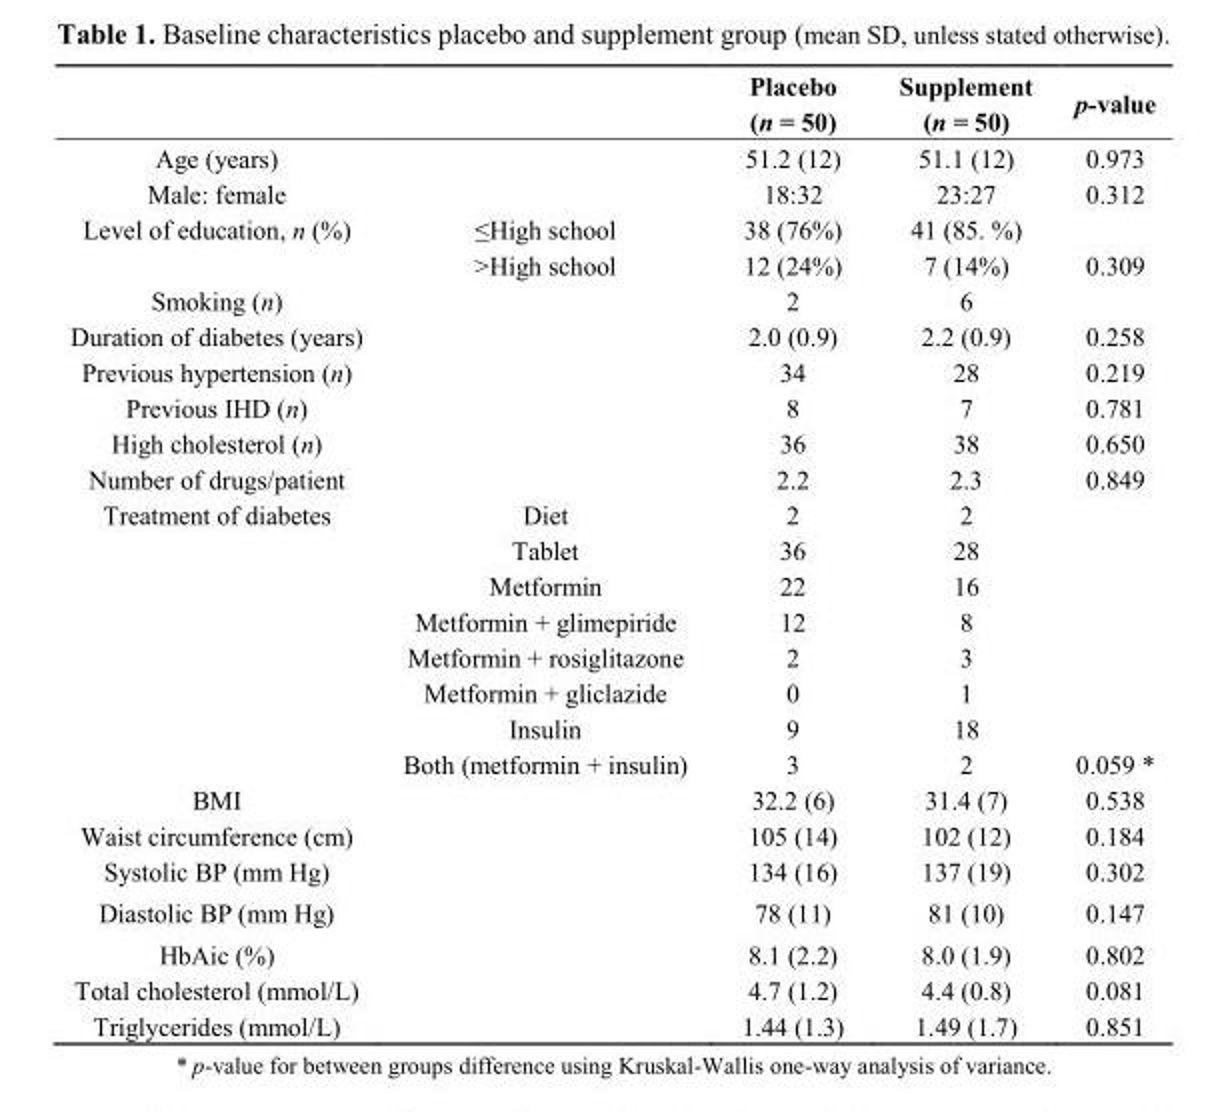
<table><thead><tr><td></td><td></td><td>Placebo (n = 50)</td><td>Supplement (n = 50)</td><td>p-value</td></tr></thead><tbody><tr><td>Age (years)</td><td></td><td>51.2 (12)</td><td>51.1 (12)</td><td>0.973</td></tr><tr><td>Male: female</td><td></td><td>18:32</td><td>23:27</td><td>0.312</td></tr><tr><td rowspan="2">Level of education, n (%)</td><td>≤High school</td><td>38 (76%)</td><td>41 (85. %)</td><td></td></tr><tr><td>&gt;High school</td><td>12 (24%)</td><td>7 (14%)</td><td>0.309</td></tr><tr><td>Smoking (n)</td><td></td><td>2</td><td>6</td><td></td></tr><tr><td>Duration of diabetes (years)</td><td></td><td>2.0 (0.9)</td><td>2.2 (0.9)</td><td>0.258</td></tr><tr><td>Previous hypertension (n)</td><td></td><td>34</td><td>28</td><td>0.219</td></tr><tr><td>Previous IHD (n)</td><td></td><td>8</td><td>7</td><td>0.781</td></tr><tr><td>High cholesterol (n)</td><td></td><td>36</td><td>38</td><td>0.650</td></tr><tr><td>Number of drugs/patient</td><td></td><td>2.2</td><td>2.3</td><td>0.849</td></tr><tr><td rowspan="8">Treatment of diabetes</td><td>Diet</td><td>2</td><td>2</td><td></td></tr><tr><td>Tablet</td><td>36</td><td>28</td><td rowspan="5"></td></tr><tr><td>Metformin</td><td>22</td><td>16</td></tr><tr><td>Metformin + glimepiride</td><td>12</td><td>8</td></tr><tr><td>Metformin + rosiglitazone</td><td>2</td><td>3</td></tr><tr><td>Metformin + gliclazide</td><td>0</td><td>1</td></tr><tr><td>Insulin</td><td>9</td><td>18</td><td></td></tr><tr><td>Both (metformin + insulin)</td><td>3</td><td>2</td><td>0.059 *</td></tr><tr><td>BMI</td><td></td><td>32.2 (6)</td><td>31.4 (7)</td><td>0.538</td></tr><tr><td>Waist circumference (cm)</td><td></td><td>105 (14)</td><td>102 (12)</td><td>0.184</td></tr><tr><td>Systolic BP (mm Hg)</td><td></td><td>134 (16)</td><td>137 (19)</td><td>0.302</td></tr><tr><td>Diastolic BP (mm Hg)</td><td></td><td>78 (11)</td><td>81 (10)</td><td>0.147</td></tr><tr><td>HbAic (%)</td><td></td><td>8.1 (2.2)</td><td>8.0 (1.9)</td><td>0.802</td></tr><tr><td>Total cholesterol (mmol/L)</td><td></td><td>4.7 (1.2)</td><td>4.4 (0.8)</td><td>0.081</td></tr><tr><td>Triglycerides (mmol/L)</td><td></td><td>1.44 (1.3)</td><td>1.49 (1.7)</td><td>0.851</td></tr></tbody></table>